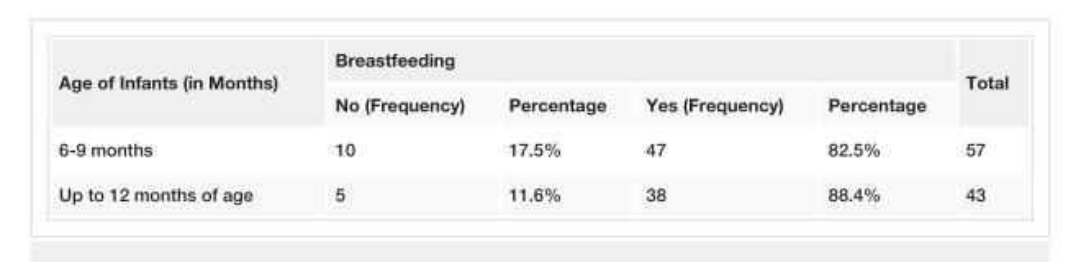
<table><tbody><tr><td rowspan="2">Age of Infants (in Months)</td><td colspan="4">Breastfeeding</td><td rowspan="2">Total</td></tr><tr><td>No (Frequency)</td><td>Percentage</td><td>Yes (Frequency)</td><td>Percentage</td></tr><tr><td>6-9 months</td><td>10</td><td>17.5%</td><td>47</td><td>82.5%</td><td>57</td></tr><tr><td>Up to 12 months of age</td><td>5</td><td>11.6%</td><td>38</td><td>88.4%</td><td>43</td></tr></tbody></table>